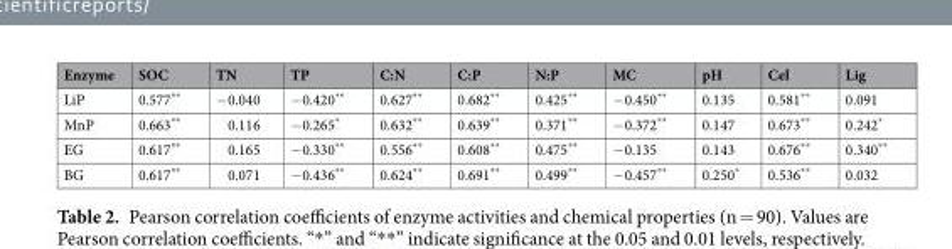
<table><thead><tr><td>Enzyme</td><td>SOC</td><td>TN</td><td>TP</td><td>C:N</td><td>C:P</td><td>N:P</td><td>MC</td><td>pH</td><td>Cel</td><td>Lig</td></tr></thead><tbody><tr><td>LiP</td><td>0.577**</td><td>−0.040</td><td>−0.420**</td><td>0.627**</td><td>0.682**</td><td>0.425**</td><td>−0.450**</td><td>0.135</td><td>0.581**</td><td>0.091</td></tr><tr><td>MnP</td><td>0.663**</td><td>0.116</td><td>−0.265*</td><td>0.632**</td><td>0.639**</td><td>0.371**</td><td>−0.372**</td><td>0.147</td><td>0.673**</td><td>0.242*</td></tr><tr><td>EG</td><td>0.617**</td><td>0.165</td><td>−0.330**</td><td>0.556**</td><td>0.608**</td><td>0.475**</td><td>−0.135</td><td>0.143</td><td>0.676**</td><td>0.340**</td></tr><tr><td>BG</td><td>0.617**</td><td>0.071</td><td>−0.436**</td><td>0.624**</td><td>0.691**</td><td>0.499**</td><td>−0.457**</td><td>0.250*</td><td>0.536**</td><td>0.032</td></tr></tbody></table>